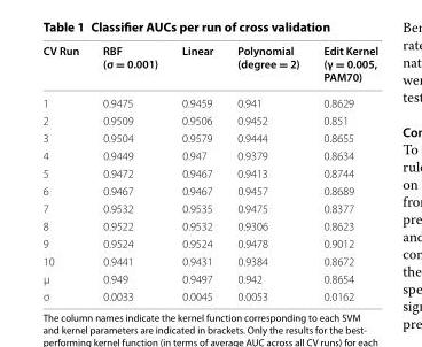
<table><thead><tr><td>CV Run</td><td>RBF (σ = 0.001)</td><td>Linear</td><td>Polynomial (degree = 2)</td><td>Edit Kernel (γ = 0.005, PAM70)</td></tr></thead><tbody><tr><td>1</td><td>0.9475</td><td>0.9459</td><td>0.941</td><td>0.8629</td></tr><tr><td>2</td><td>0.9509</td><td>0.9506</td><td>0.9452</td><td>0.851</td></tr><tr><td>3</td><td>0.9504</td><td>0.9579</td><td>0.9444</td><td>0.8655</td></tr><tr><td>4</td><td>0.9449</td><td>0.947</td><td>0.9379</td><td>0.8634</td></tr><tr><td>5</td><td>0.9472</td><td>0.9467</td><td>0.9413</td><td>0.8744</td></tr><tr><td>6</td><td>0.9467</td><td>0.9467</td><td>0.9457</td><td>0.8689</td></tr><tr><td>7</td><td>0.9532</td><td>0.9535</td><td>0.9475</td><td>0.8377</td></tr><tr><td>8</td><td>0.9522</td><td>0.9532</td><td>0.9306</td><td>0.8623</td></tr><tr><td>9</td><td>0.9524</td><td>0.9524</td><td>0.9478</td><td>0.9012</td></tr><tr><td>10</td><td>0.9441</td><td>0.9431</td><td>0.9384</td><td>0.8672</td></tr><tr><td>μ</td><td>0.949</td><td>0.9497</td><td>0.942</td><td>0.8654</td></tr><tr><td>σ</td><td>0.0033</td><td>0.0045</td><td>0.0053</td><td>0.0162</td></tr></tbody></table>